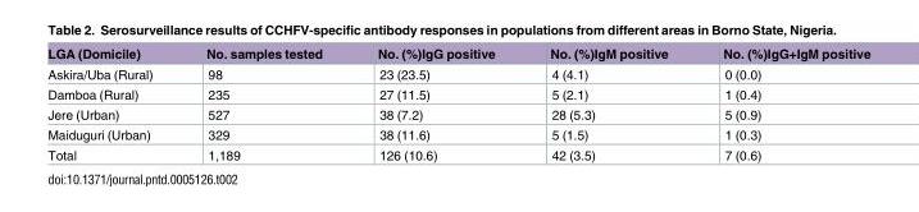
<table><thead><tr><td>LGA (Domicile)</td><td>No. samples tested</td><td>No. (%)IgG positive</td><td>No. (%)IgM positive</td><td>No. (%)IgG+IgM positive</td></tr></thead><tbody><tr><td>Askira/Uba (Rural)</td><td>98</td><td>23 (23.5)</td><td>4 (4.1)</td><td>0 (0.0)</td></tr><tr><td>Damboa (Rural)</td><td>235</td><td>27 (11.5)</td><td>5 (2.1)</td><td>1 (0.4)</td></tr><tr><td>Jere (Urban)</td><td>527</td><td>38 (7.2)</td><td>28 (5.3)</td><td>5 (0.9)</td></tr><tr><td>Maiduguri (Urban)</td><td>329</td><td>38 (11.6)</td><td>5 (1.5)</td><td>1 (0.3)</td></tr><tr><td>Total</td><td>1,189</td><td>126 (10.6)</td><td>42 (3.5)</td><td>7 (0.6)</td></tr></tbody></table>